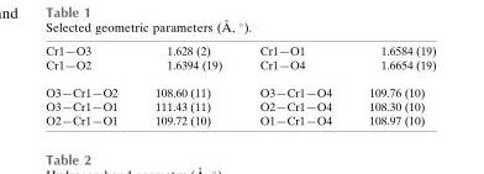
<table><tbody><tr><td>Cr1—O3</td><td>1.628 (2)</td><td>Cr1—O1</td><td>1.6584 (19)</td></tr><tr><td>Cr1—O2</td><td>1.6394 (19)</td><td>Cr1—O4</td><td>1.6654 (19)</td></tr><tr><td>O3—Cr1—O2</td><td>108.60 (11)</td><td>O3—Cr1—O4</td><td>109.76 (10)</td></tr><tr><td>O3—Cr1—O1</td><td>111.43 (11)</td><td>O2—Cr1—O4</td><td>108.30 (10)</td></tr><tr><td>O2—Cr1—O1</td><td>109.72 (10)</td><td>O1—Cr1—O4</td><td>108.97 (10)</td></tr></tbody></table>